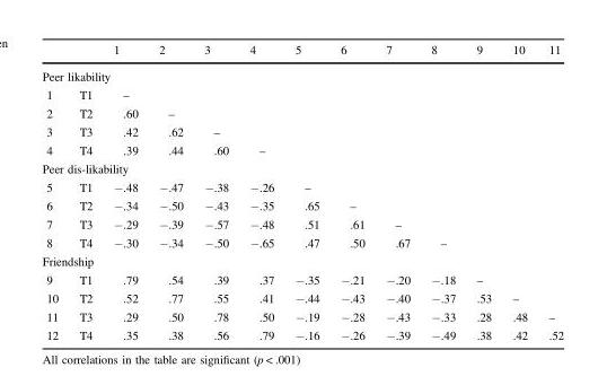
<table><thead><tr><td></td><td></td><td>1</td><td>2</td><td>3</td><td>4</td><td>5</td><td>6</td><td>7</td><td>8</td><td>9</td><td>10</td><td>11</td></tr></thead><tbody><tr><td colspan="13">Peer likability</td></tr><tr><td>1</td><td>T1</td><td>–</td><td></td><td></td><td></td><td></td><td></td><td></td><td></td><td></td><td></td><td></td></tr><tr><td>2</td><td>T2</td><td>.60</td><td>–</td><td></td><td></td><td></td><td></td><td></td><td></td><td></td><td></td><td></td></tr><tr><td>3</td><td>T3</td><td>.42</td><td>.62</td><td>–</td><td></td><td></td><td></td><td></td><td></td><td></td><td></td><td></td></tr><tr><td>4</td><td>T4</td><td>.39</td><td>.44</td><td>.60</td><td>–</td><td></td><td></td><td></td><td></td><td></td><td></td><td></td></tr><tr><td colspan="13">Peer dis-likability</td></tr><tr><td>5</td><td>T1</td><td>−.48</td><td>−.47</td><td>−.38</td><td>−.26</td><td>–</td><td></td><td></td><td></td><td></td><td></td><td></td></tr><tr><td>6</td><td>T2</td><td>−.34</td><td>−.50</td><td>−.43</td><td>−.35</td><td>.65</td><td>–</td><td></td><td></td><td></td><td></td><td></td></tr><tr><td>7</td><td>T3</td><td>−.29</td><td>−.39</td><td>−.57</td><td>−.48</td><td>.51</td><td>.61</td><td>–</td><td></td><td></td><td></td><td></td></tr><tr><td>8</td><td>T4</td><td>−.30</td><td>−.34</td><td>−.50</td><td>−.65</td><td>.47</td><td>.50</td><td>.67</td><td>–</td><td></td><td></td><td></td></tr><tr><td colspan="13">Friendship</td></tr><tr><td>9</td><td>T1</td><td>.79</td><td>.54</td><td>.39</td><td>.37</td><td>−.35</td><td>−.21</td><td>−.20</td><td>−.18</td><td>–</td><td></td><td></td></tr><tr><td>10</td><td>T2</td><td>.52</td><td>.77</td><td>.55</td><td>.41</td><td>−.44</td><td>−.43</td><td>−.40</td><td>−.37</td><td>.53</td><td>–</td><td></td></tr><tr><td>11</td><td>T3</td><td>.29</td><td>.50</td><td>.78</td><td>.50</td><td>−.19</td><td>−.28</td><td>−.43</td><td>−.33</td><td>.28</td><td>.48</td><td>–</td></tr><tr><td>12</td><td>T4</td><td>.35</td><td>.38</td><td>.56</td><td>.79</td><td>−.16</td><td>−.26</td><td>−.39</td><td>−.49</td><td>.38</td><td>.42</td><td>.52</td></tr></tbody></table>